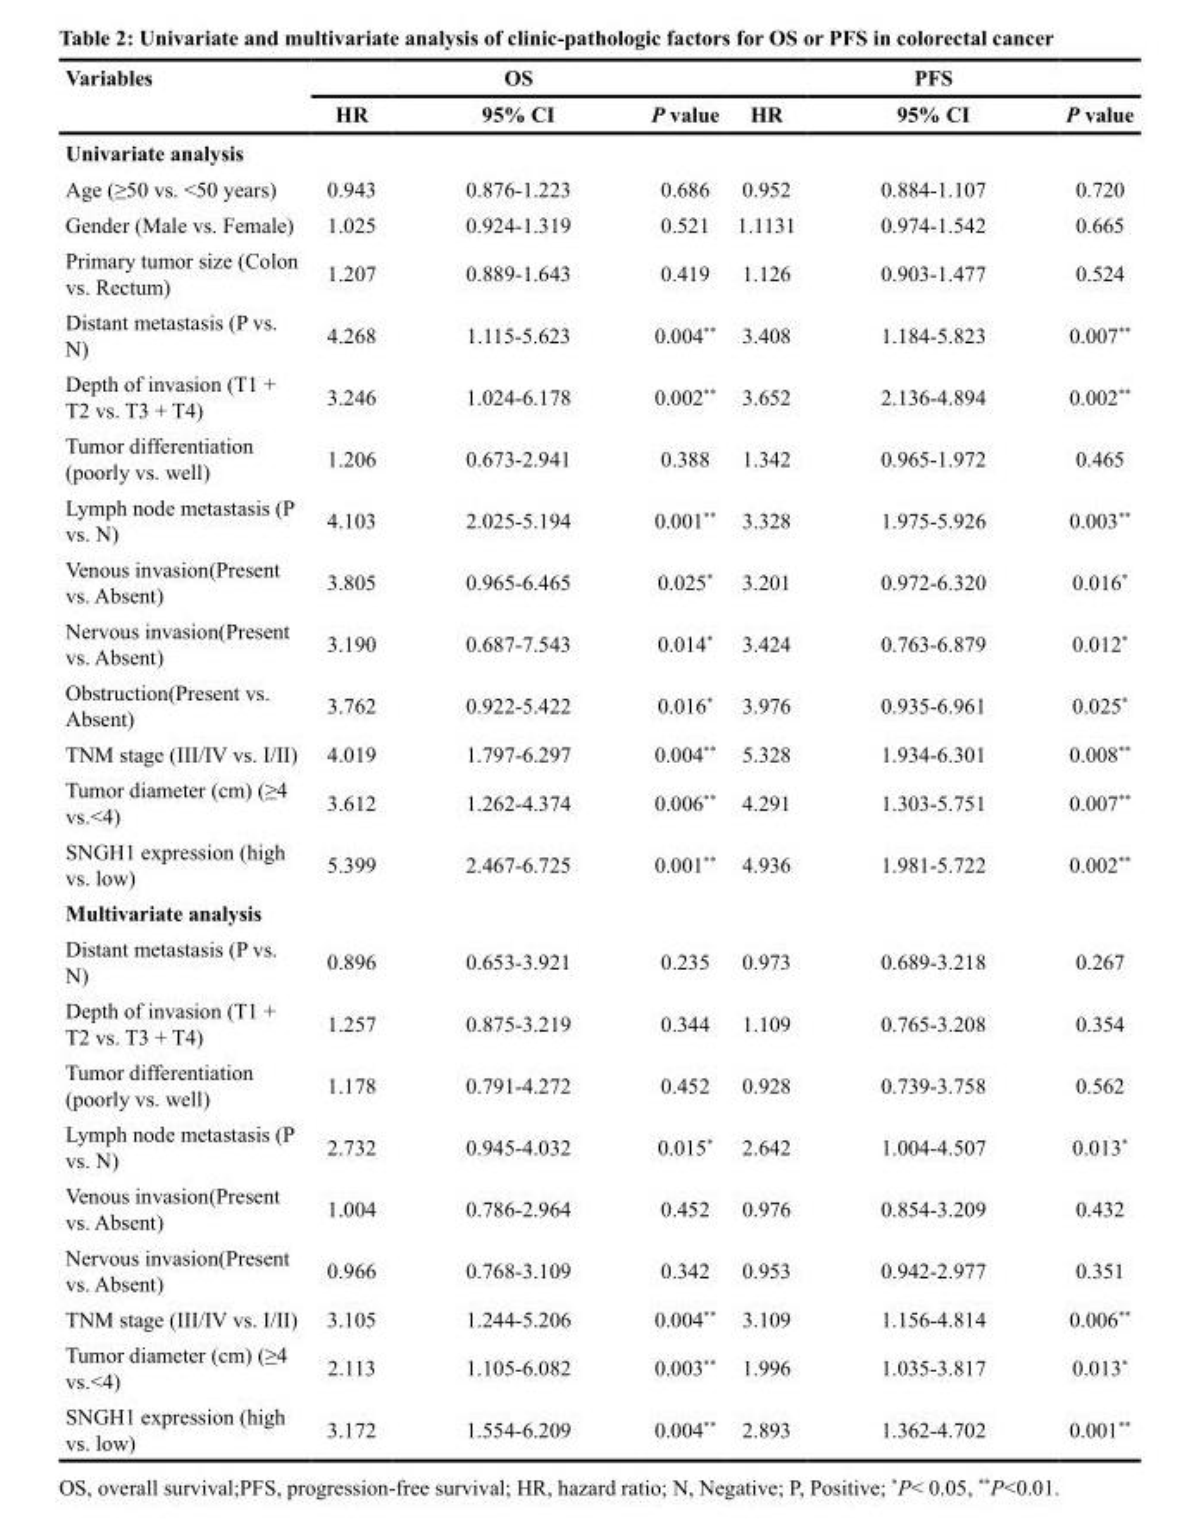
<table><thead><tr><td rowspan="2">Variables</td><td colspan="3">OS</td><td colspan="3">PFS</td></tr><tr><td>HR</td><td>95% CI</td><td>P value</td><td>HR</td><td>95% CI</td><td>P value</td></tr></thead><tbody><tr><td colspan="7">Univariate analysis</td></tr><tr><td>Age (≥50 vs. &lt;50 years)</td><td>0.943</td><td>0.876-1.223</td><td>0.686</td><td>0.952</td><td>0.884-1.107</td><td>0.720</td></tr><tr><td>Gender (Male vs. Female)</td><td>1.025</td><td>0.924-1.319</td><td>0.521</td><td>1.1131</td><td>0.974-1.542</td><td>0.665</td></tr><tr><td>Primary tumor size (Colon vs. Rectum)</td><td>1.207</td><td>0.889-1.643</td><td>0.419</td><td>1.126</td><td>0.903-1.477</td><td>0.524</td></tr><tr><td>Distant metastasis (P vs. N)</td><td>4.268</td><td>1.115-5.623</td><td>0.004**</td><td>3.408</td><td>1.184-5.823</td><td>0.007**</td></tr><tr><td>Depth of invasion (T1 + T2 vs. T3 + T4)</td><td>3.246</td><td>1.024-6.178</td><td>0.002**</td><td>3.652</td><td>2.136-4.894</td><td>0.002**</td></tr><tr><td>Tumor differentiation (poorly vs. well)</td><td>1.206</td><td>0.673-2.941</td><td>0.388</td><td>1.342</td><td>0.965-1.972</td><td>0.465</td></tr><tr><td>Lymph node metastasis (P vs. N)</td><td>4.103</td><td>2.025-5.194</td><td>0.001**</td><td>3.328</td><td>1.975-5.926</td><td>0.003**</td></tr><tr><td>Venous invasion(Present vs. Absent)</td><td>3.805</td><td>0.965-6.465</td><td>0.025*</td><td>3.201</td><td>0.972-6.320</td><td>0.016*</td></tr><tr><td>Nervous invasion(Present vs. Absent)</td><td>3.190</td><td>0.687-7.543</td><td>0.014*</td><td>3.424</td><td>0.763-6.879</td><td>0.012*</td></tr><tr><td>Obstruction(Present vs. Absent)</td><td>3.762</td><td>0.922-5.422</td><td>0.016*</td><td>3.976</td><td>0.935-6.961</td><td>0.025*</td></tr><tr><td>TNM stage (III/IV vs. I/II)</td><td>4.019</td><td>1.797-6.297</td><td>0.004**</td><td>5.328</td><td>1.934-6.301</td><td>0.008**</td></tr><tr><td>Tumor diameter (cm) (≥4 vs.&lt;4)</td><td>3.612</td><td>1.262-4.374</td><td>0.006**</td><td>4.291</td><td>1.303-5.751</td><td>0.007**</td></tr><tr><td>SNGH1 expression (high vs. low)</td><td>5.399</td><td>2.467-6.725</td><td>0.001**</td><td>4.936</td><td>1.981-5.722</td><td>0.002**</td></tr><tr><td colspan="7">Multivariate analysis</td></tr><tr><td>Distant metastasis (P vs. N)</td><td>0.896</td><td>0.653-3.921</td><td>0.235</td><td>0.973</td><td>0.689-3.218</td><td>0.267</td></tr><tr><td>Depth of invasion (T1 + T2 vs. T3 + T4)</td><td>1.257</td><td>0.875-3.219</td><td>0.344</td><td>1.109</td><td>0.765-3.208</td><td>0.354</td></tr><tr><td>Tumor differentiation (poorly vs. well)</td><td>1.178</td><td>0.791-4.272</td><td>0.452</td><td>0.928</td><td>0.739-3.758</td><td>0.562</td></tr><tr><td>Lymph node metastasis (P vs. N)</td><td>2.732</td><td>0.945-4.032</td><td>0.015*</td><td>2.642</td><td>1.004-4.507</td><td>0.013*</td></tr><tr><td>Venous invasion(Present vs. Absent)</td><td>1.004</td><td>0.786-2.964</td><td>0.452</td><td>0.976</td><td>0.854-3.209</td><td>0.432</td></tr><tr><td>Nervous invasion(Present vs. Absent)</td><td>0.966</td><td>0.768-3.109</td><td>0.342</td><td>0.953</td><td>0.942-2.977</td><td>0.351</td></tr><tr><td>TNM stage (III/IV vs. I/II)</td><td>3.105</td><td>1.244-5.206</td><td>0.004**</td><td>3.109</td><td>1.156-4.814</td><td>0.006**</td></tr><tr><td>Tumor diameter (cm) (≥4 vs.&lt;4)</td><td>2.113</td><td>1.105-6.082</td><td>0.003**</td><td>1.996</td><td>1.035-3.817</td><td>0.013*</td></tr><tr><td>SNGH1 expression (high vs. low)</td><td>3.172</td><td>1.554-6.209</td><td>0.004**</td><td>2.893</td><td>1.362-4.702</td><td>0.001**</td></tr></tbody></table>